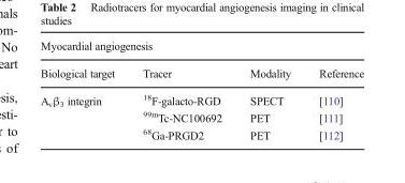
<table><thead><tr><td colspan="4">Myocardial angiogenesis</td></tr><tr><td>Biological target</td><td>Tracer</td><td>Modality</td><td>Reference</td></tr></thead><tbody><tr><td rowspan="3">A<sub>v</sub>β<sub>3</sub> integrin</td><td><sup>18</sup>F-galacto-RGD</td><td>SPECT</td><td>[110]</td></tr><tr><td><sup>99m</sup>Tc-NC100692</td><td>PET</td><td>[111]</td></tr><tr><td><sup>68</sup>Ga-PRGD2</td><td>PET</td><td>[112]</td></tr></tbody></table>